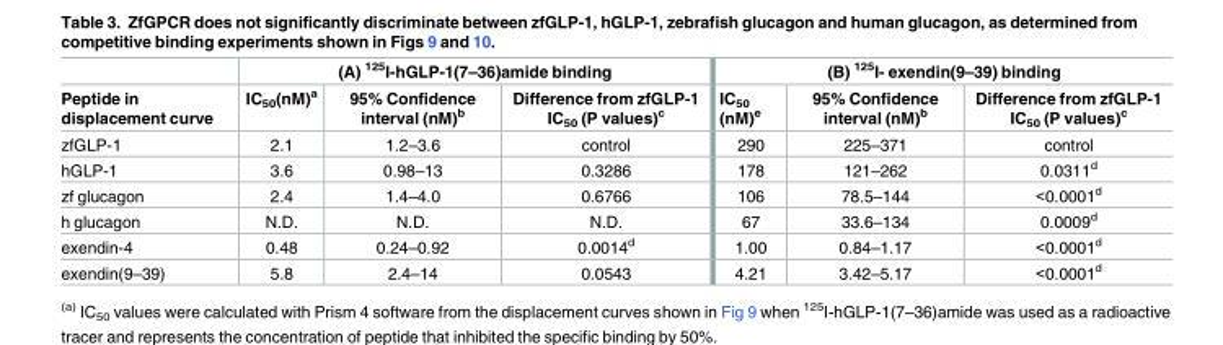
<table><thead><tr><td rowspan="2">Peptide in displacement curve</td><td colspan="3">(A) <sup>125</sup>I-hGLP-1(7–36)amide binding</td><td colspan="3">(B) <sup>125</sup>I- exendin(9–39) binding</td></tr><tr><td>IC<sub>50</sub>(nM)<sup>a</sup></td><td>95% Confidence interval (nM)<sup>b</sup></td><td>Difference from zfGLP-1 IC<sub>50</sub> (P values)<sup>c</sup></td><td>IC<sub>50</sub> (nM)<sup>e</sup></td><td>95% Confidence interval (nM)<sup>b</sup></td><td>Difference from zfGLP-1 IC<sub>50</sub> (P values)<sup>c</sup></td></tr></thead><tbody><tr><td>zfGLP-1</td><td>2.1</td><td>1.2–3.6</td><td>control</td><td>290</td><td>225–371</td><td>control</td></tr><tr><td>hGLP-1</td><td>3.6</td><td>0.98–13</td><td>0.3286</td><td>178</td><td>121–262</td><td>0.0311<sup>d</sup></td></tr><tr><td>zf glucagon</td><td>2.4</td><td>1.4–4.0</td><td>0.6766</td><td>106</td><td>78.5–144</td><td>&lt;0.0001<sup>d</sup></td></tr><tr><td>h glucagon</td><td>N.D.</td><td>N.D.</td><td>N.D.</td><td>67</td><td>33.6–134</td><td>0.0009<sup>d</sup></td></tr><tr><td>exendin-4</td><td>0.48</td><td>0.24–0.92</td><td>0.0014<sup>d</sup></td><td>1.00</td><td>0.84–1.17</td><td>&lt;0.0001<sup>d</sup></td></tr><tr><td>exendin(9–39)</td><td>5.8</td><td>2.4–14</td><td>0.0543</td><td>4.21</td><td>3.42–5.17</td><td>&lt;0.0001<sup>d</sup></td></tr></tbody></table>